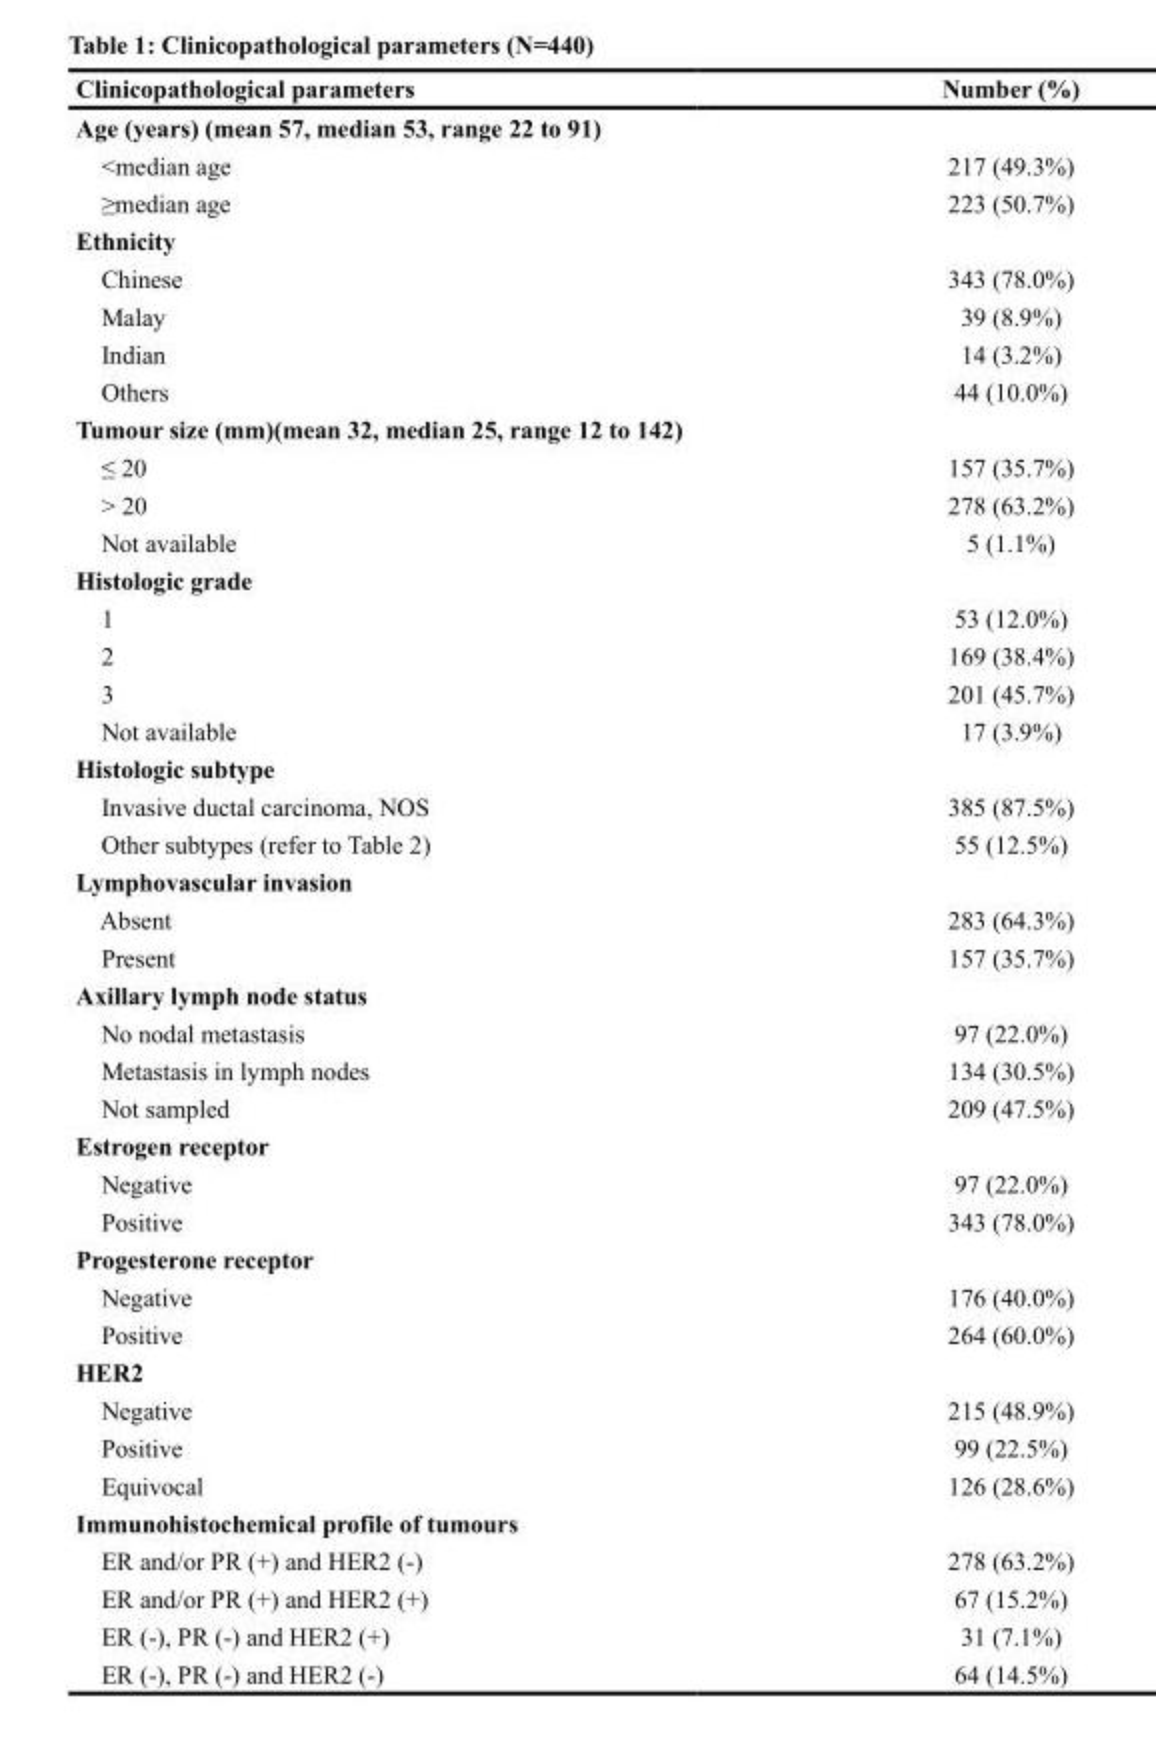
<table><thead><tr><td>Clinicopathological parameters</td><td>Number (%)</td></tr></thead><tbody><tr><td colspan="2">Age (years) (mean 57, median 53, range 22 to 91)</td></tr><tr><td>&lt;median age</td><td>217 (49.3%)</td></tr><tr><td>≥median age</td><td>223 (50.7%)</td></tr><tr><td colspan="2">Ethnicity</td></tr><tr><td>Chinese</td><td>343 (78.0%)</td></tr><tr><td>Malay</td><td>39 (8.9%)</td></tr><tr><td>Indian</td><td>14 (3.2%)</td></tr><tr><td>Others</td><td>44 (10.0%)</td></tr><tr><td colspan="2">Tumour size (mm)(mean 32, median 25, range 12 to 142)</td></tr><tr><td>≤ 20</td><td>157 (35.7%)</td></tr><tr><td>&gt; 20</td><td>278 (63.2%)</td></tr><tr><td>Not available</td><td>5 (1.1%)</td></tr><tr><td colspan="2">Histologic grade</td></tr><tr><td>1</td><td>53 (12.0%)</td></tr><tr><td>2</td><td>169 (38.4%)</td></tr><tr><td>3</td><td>201 (45.7%)</td></tr><tr><td>Not available</td><td>17 (3.9%)</td></tr><tr><td colspan="2">Histologic subtype</td></tr><tr><td>Invasive ductal carcinoma, NOS</td><td>385 (87.5%)</td></tr><tr><td>Other subtypes (refer to Table 2)</td><td>55 (12.5%)</td></tr><tr><td colspan="2">Lymphovascular invasion</td></tr><tr><td>Absent</td><td>283 (64.3%)</td></tr><tr><td>Present</td><td>157 (35.7%)</td></tr><tr><td colspan="2">Axillary lymph node status</td></tr><tr><td>No nodal metastasis</td><td>97 (22.0%)</td></tr><tr><td>Metastasis in lymph nodes</td><td>134 (30.5%)</td></tr><tr><td>Not sampled</td><td>209 (47.5%)</td></tr><tr><td colspan="2">Estrogen receptor</td></tr><tr><td>Negative</td><td>97 (22.0%)</td></tr><tr><td>Positive</td><td>343 (78.0%)</td></tr><tr><td colspan="2">Progesterone receptor</td></tr><tr><td>Negative</td><td>176 (40.0%)</td></tr><tr><td>Positive</td><td>264 (60.0%)</td></tr><tr><td colspan="2">HER2</td></tr><tr><td>Negative</td><td>215 (48.9%)</td></tr><tr><td>Positive</td><td>99 (22.5%)</td></tr><tr><td>Equivocal</td><td>126 (28.6%)</td></tr><tr><td colspan="2">Immunohistochemical profile of tumours</td></tr><tr><td>ER and/or PR (+) and HER2 (-)</td><td>278 (63.2%)</td></tr><tr><td>ER and/or PR (+) and HER2 (+)</td><td>67 (15.2%)</td></tr><tr><td>ER (-), PR (-) and HER2 (+)</td><td>31 (7.1%)</td></tr><tr><td>ER (-), PR (-) and HER2 (-)</td><td>64 (14.5%)</td></tr></tbody></table>